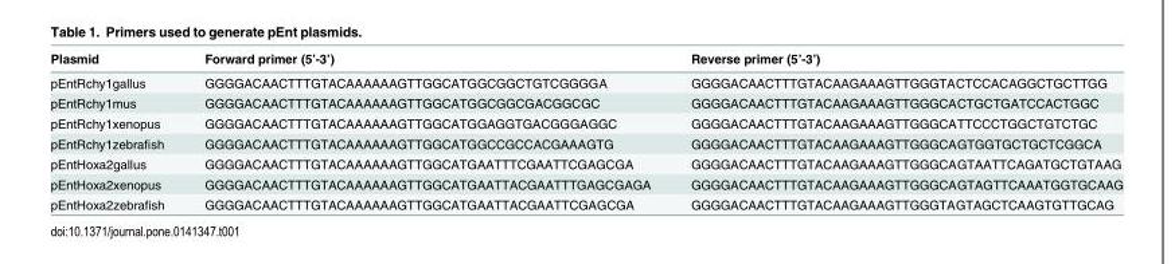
<table><thead><tr><td>Plasmid</td><td>Forward primer (5’-3’)</td><td>Reverse primer (5’-3’)</td></tr></thead><tbody><tr><td>pEntRchy1gallus</td><td>GGGGACAACTTTGTACAAAAAAGTTGGCATGGCGGCTGTCGGGGA</td><td>GGGGACAACTTTGTACAAGAAAGTTGGGTACTCCACAGGCTGCTTGG</td></tr><tr><td>pEntRchy1mus</td><td>GGGGACAACTTTGTACAAAAAAGTTGGCATGGCGGCGACGGCGC</td><td>GGGGACAACTTTGTACAAGAAAGTTGGGCACTGCTGATCCACTGGC</td></tr><tr><td>pEntRchy1xenopus</td><td>GGGGACAACTTTGTACAAAAAAGTTGGCATGGAGGTGACGGGAGGC</td><td>GGGGACAACTTTGTACAAGAAAGTTGGGCATTCCCTGGCTGTCTGC</td></tr><tr><td>pEntRchy1zebrafish</td><td>GGGGACAACTTTGTACAAAAAAGTTGGCATGGCCGCCACGAAAGTG</td><td>GGGGACAACTTTGTACAAGAAAGTTGGGCAGTGGTGCTGCTCGGCA</td></tr><tr><td>pEntHoxa2gallus</td><td>GGGGACAACTTTGTACAAAAAAGTTGGCATGAATTTCGAATTCGAGCGA</td><td>GGGGACAACTTTGTACAAGAAAGTTGGGCAGTAATTCAGATGCTGTAAG</td></tr><tr><td>pEntHoxa2xenopus</td><td>GGGGACAACTTTGTACAAAAAAGTTGGCATGAATTACGAATTTGAGCGAGA</td><td>GGGGACAACTTTGTACAAGAAAGTTGGGCAGTAGTTCAAATGGTGCAAG</td></tr><tr><td>pEntHoxa2zebrafish</td><td>GGGGACAACTTTGTACAAAAAAGTTGGCATGAATTACGAATTCGAGCGA</td><td>GGGGACAACTTTGTACAAGAAAGTTGGGTAGTAGCTCAAGTGTTGCAG</td></tr></tbody></table>